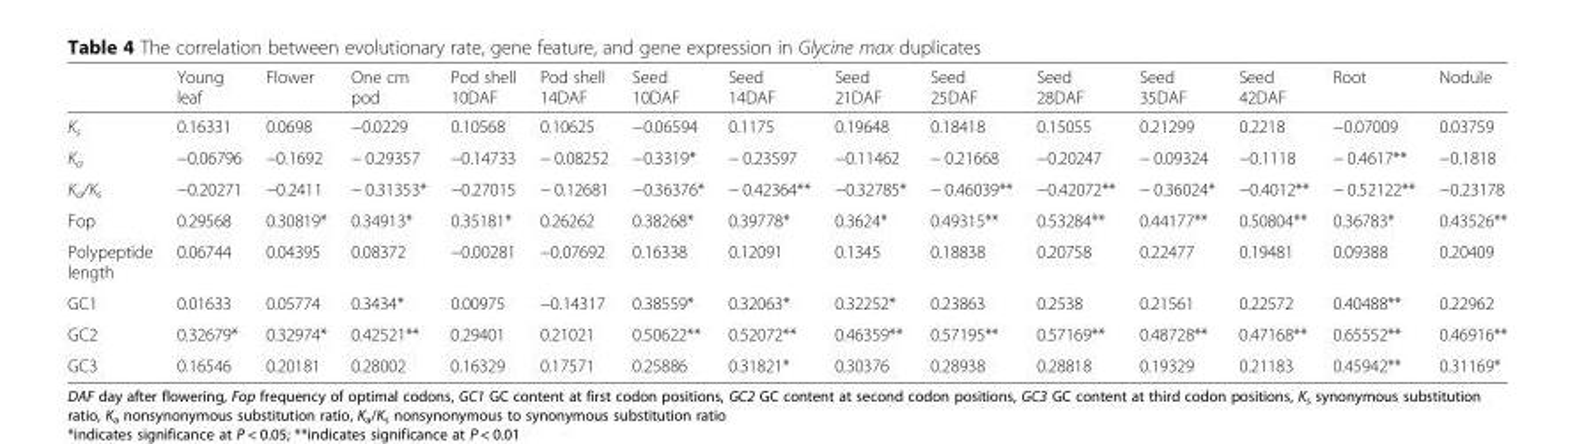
<table><thead><tr><td></td><td>Young leaf</td><td>Flower</td><td>One cm pod</td><td>Pod shell 10DAF</td><td>Pod shell 14DAF</td><td>Seed 10DAF</td><td>Seed 14DAF</td><td>Seed 21DAF</td><td>Seed 25DAF</td><td>Seed 28DAF</td><td>Seed 35DAF</td><td>Seed 42DAF</td><td>Root</td><td>Nodule</td></tr></thead><tbody><tr><td>K<sub>s</sub></td><td>0.16331</td><td>0.0698</td><td>−0.0229</td><td>0.10568</td><td>0.10625</td><td>−0.06594</td><td>0.1175</td><td>0.19648</td><td>0.18418</td><td>0.15055</td><td>0.21299</td><td>0.2218</td><td>−0.07009</td><td>0.03759</td></tr><tr><td>K<sub>a</sub></td><td>−0.06796</td><td>−0.1692</td><td>− 0.29357</td><td>−0.14733</td><td>− 0.08252</td><td>−0.3319*</td><td>− 0.23597</td><td>−0.11462</td><td>− 0.21668</td><td>−0.20247</td><td>− 0.09324</td><td>−0.1118</td><td>− 0.4617**</td><td>−0.1818</td></tr><tr><td>K<sub>a</sub>/K<sub>s</sub></td><td>−0.20271</td><td>−0.2411</td><td>− 0.31353*</td><td>−0.27015</td><td>− 0.12681</td><td>−0.36376*</td><td>− 0.42364**</td><td>−0.32785*</td><td>− 0.46039**</td><td>−0.42072**</td><td>− 0.36024*</td><td>−0.4012**</td><td>− 0.52122**</td><td>−0.23178</td></tr><tr><td>Fop</td><td>0.29568</td><td>0.30819*</td><td>0.34913*</td><td>0.35181*</td><td>0.26262</td><td>0.38268*</td><td>0.39778*</td><td>0.3624*</td><td>0.49315**</td><td>0.53284**</td><td>0.44177**</td><td>0.50804**</td><td>0.36783*</td><td>0.43526**</td></tr><tr><td>Polypeptide length</td><td>0.06744</td><td>0.04395</td><td>0.08372</td><td>−0.00281</td><td>−0.07692</td><td>0.16338</td><td>0.12091</td><td>0.1345</td><td>0.18838</td><td>0.20758</td><td>0.22477</td><td>0.19481</td><td>0.09388</td><td>0.20409</td></tr><tr><td>GC1</td><td>0.01633</td><td>0.05774</td><td>0.3434*</td><td>0.00975</td><td>−0.14317</td><td>0.38559*</td><td>0.32063*</td><td>0.32252*</td><td>0.23863</td><td>0.2538</td><td>0.21561</td><td>0.22572</td><td>0.40488**</td><td>0.22962</td></tr><tr><td>GC2</td><td>0.32679*</td><td>0.32974*</td><td>0.42521**</td><td>0.29401</td><td>0.21021</td><td>0.50622**</td><td>0.52072**</td><td>0.46359**</td><td>0.57195**</td><td>0.57169**</td><td>0.48728**</td><td>0.47168**</td><td>0.65552**</td><td>0.46916**</td></tr><tr><td>GC3</td><td>0.16546</td><td>0.20181</td><td>0.28002</td><td>0.16329</td><td>0.17571</td><td>0.25886</td><td>0.31821*</td><td>0.30376</td><td>0.28938</td><td>0.28818</td><td>0.19329</td><td>0.21183</td><td>0.45942**</td><td>0.31169*</td></tr></tbody></table>